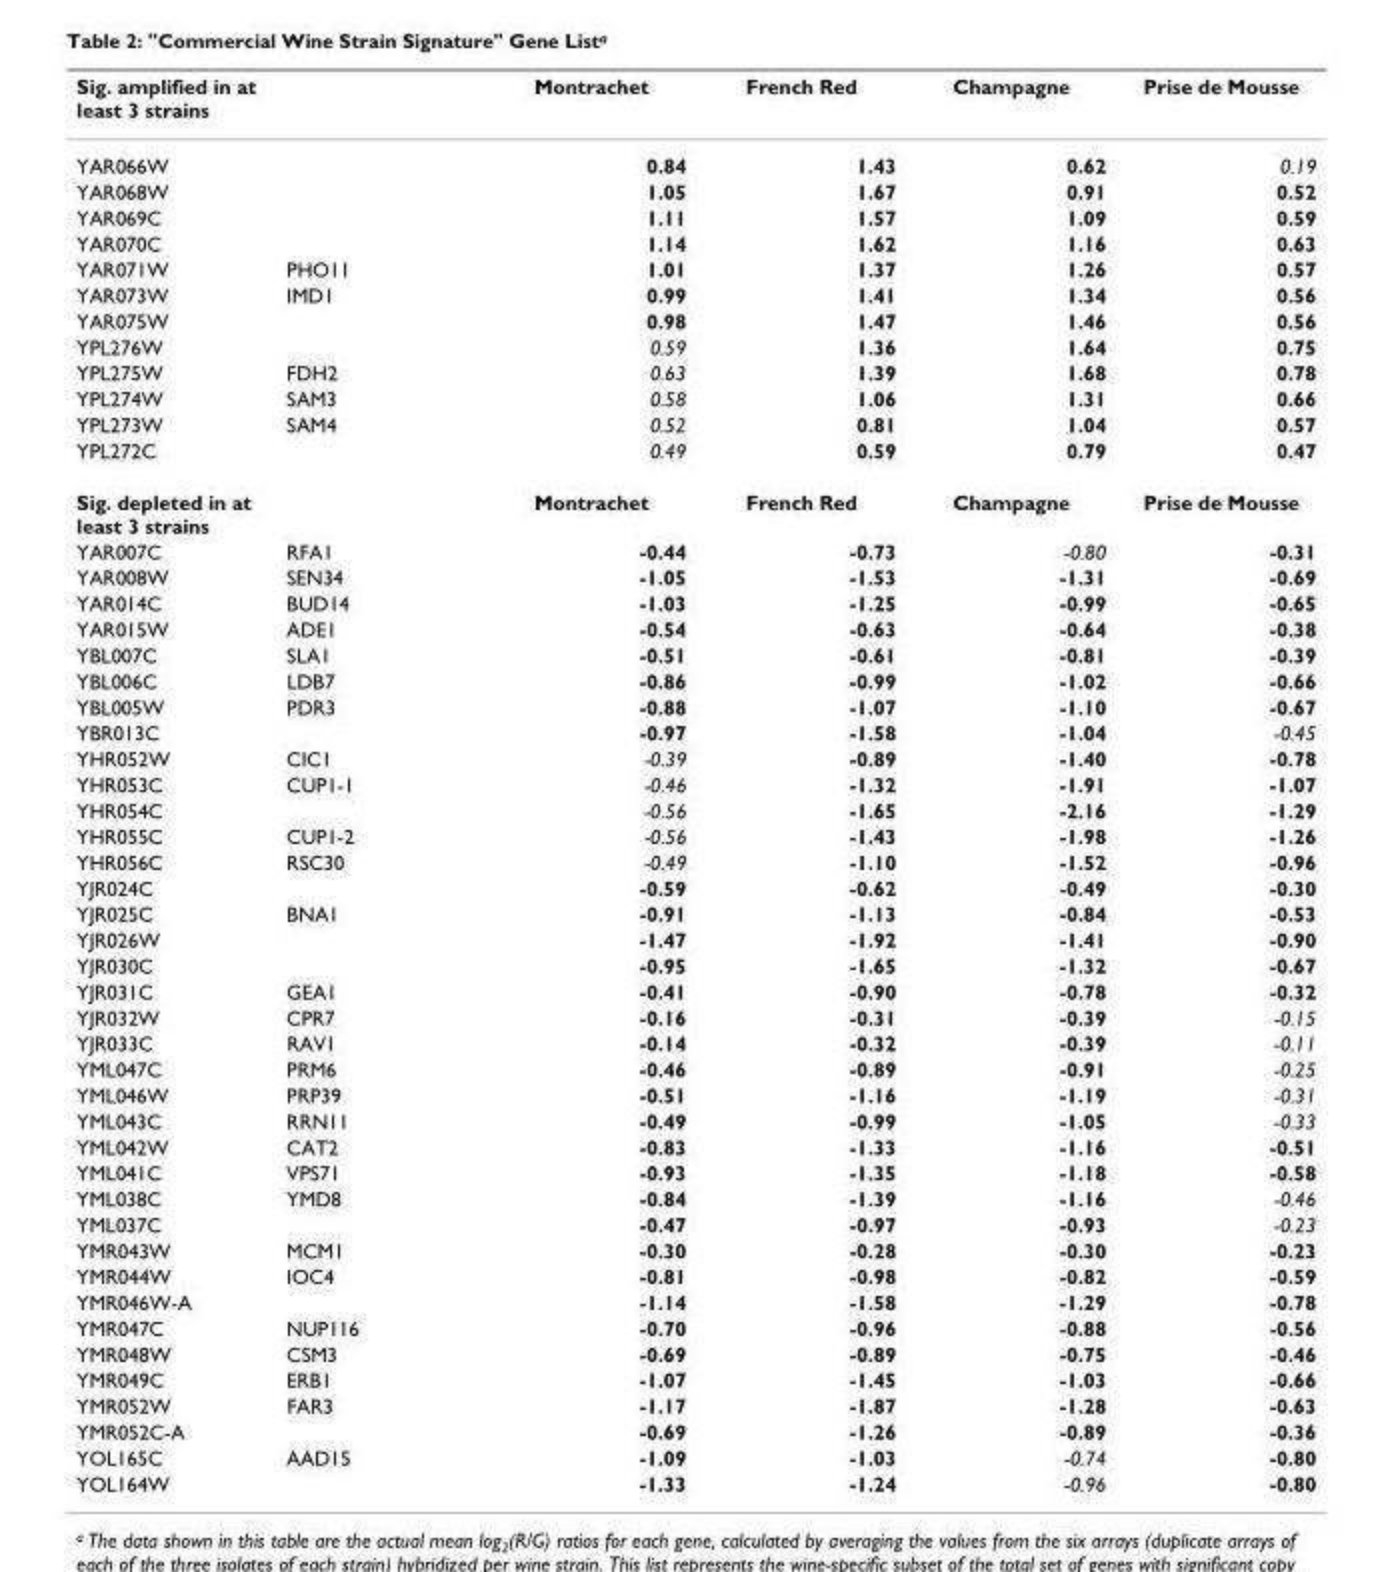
<table><thead><tr><td>Sig. amplified in at least 3 strains</td><td></td><td>Montrachet</td><td>French Red</td><td>Champagne</td><td>Prise de Mousse</td></tr></thead><tbody><tr><td>YAR066W</td><td></td><td>0.84</td><td>1.43</td><td>0.62</td><td>0.19</td></tr><tr><td>YAR068W</td><td></td><td>1.05</td><td>1.67</td><td>0.91</td><td>0.52</td></tr><tr><td>YAR069C</td><td></td><td>1.11</td><td>1.57</td><td>1.09</td><td>0.59</td></tr><tr><td>YAR070C</td><td></td><td>1.14</td><td>1.62</td><td>1.16</td><td>0.63</td></tr><tr><td>YAR071W</td><td>PHO11</td><td>1.01</td><td>1.37</td><td>1.26</td><td>0.57</td></tr><tr><td>YAR073W</td><td>IMD1</td><td>0.99</td><td>1.41</td><td>1.34</td><td>0.56</td></tr><tr><td>YAR075W</td><td></td><td>0.98</td><td>1.47</td><td>1.46</td><td>0.56</td></tr><tr><td>YPL276W</td><td></td><td>0.59</td><td>1.36</td><td>1.64</td><td>0.75</td></tr><tr><td>YPL275W</td><td>FDH2</td><td>0.63</td><td>1.39</td><td>1.68</td><td>0.78</td></tr><tr><td>YPL274W</td><td>SAM3</td><td>0.58</td><td>1.06</td><td>1.31</td><td>0.66</td></tr><tr><td>YPL273W</td><td>SAM4</td><td>0.52</td><td>0.81</td><td>1.04</td><td>0.57</td></tr><tr><td>YPL272C</td><td></td><td>0.49</td><td>0.59</td><td>0.79</td><td>0.47</td></tr><tr><td>Sig. depleted in at least 3 strains</td><td></td><td>Montrachet</td><td>French Red</td><td>Champagne</td><td>Prise de Mousse</td></tr><tr><td>YAR007C</td><td>RFA1</td><td>-0.44</td><td>-0.73</td><td>-0.80</td><td>-0.31</td></tr><tr><td>YAR008W</td><td>SEN34</td><td>-1.05</td><td>-1.53</td><td>-1.31</td><td>-0.69</td></tr><tr><td>YAR014C</td><td>BUD14</td><td>-1.03</td><td>-1.25</td><td>-0.99</td><td>-0.65</td></tr><tr><td>YAR015W</td><td>ADE1</td><td>-0.54</td><td>-0.63</td><td>-0.64</td><td>-0.38</td></tr><tr><td>YBL007C</td><td>SLA1</td><td>-0.51</td><td>-0.61</td><td>-0.81</td><td>-0.39</td></tr><tr><td>YBL006C</td><td>LDB7</td><td>-0.86</td><td>-0.99</td><td>-1.02</td><td>-0.66</td></tr><tr><td>YBL005W</td><td>PDR3</td><td>-0.88</td><td>-1.07</td><td>-1.10</td><td>-0.67</td></tr><tr><td>YBR013C</td><td></td><td>-0.97</td><td>-1.58</td><td>-1.04</td><td>-0.45</td></tr><tr><td>YHR052W</td><td>CIC1</td><td>-0.39</td><td>-0.89</td><td>-1.40</td><td>-0.78</td></tr><tr><td>YHR053C</td><td>CUP1-1</td><td>-0.46</td><td>-1.32</td><td>-1.91</td><td>-1.07</td></tr><tr><td>YHR054C</td><td></td><td>-0.56</td><td>-1.65</td><td>-2.16</td><td>-1.29</td></tr><tr><td>YHR055C</td><td>CUP1-2</td><td>-0.56</td><td>-1.43</td><td>-1.98</td><td>-1.26</td></tr><tr><td>YHR056C</td><td>RSC30</td><td>-0.49</td><td>-1.10</td><td>-1.52</td><td>-0.96</td></tr><tr><td>YJR024C</td><td></td><td>-0.59</td><td>-0.62</td><td>-0.49</td><td>-0.30</td></tr><tr><td>YJR025C</td><td>BNA1</td><td>-0.91</td><td>-1.13</td><td>-0.84</td><td>-0.53</td></tr><tr><td>YJR026W</td><td></td><td>-1.47</td><td>-1.92</td><td>-1.41</td><td>-0.90</td></tr><tr><td>YJR030C</td><td></td><td>-0.95</td><td>-1.65</td><td>-1.32</td><td>-0.67</td></tr><tr><td>YJR031C</td><td>GEA1</td><td>-0.41</td><td>-0.90</td><td>-0.78</td><td>-0.32</td></tr><tr><td>YJR032W</td><td>CPR7</td><td>-0.16</td><td>-0.31</td><td>-0.39</td><td>-0.15</td></tr><tr><td>YJR033C</td><td>RAV1</td><td>-0.14</td><td>-0.32</td><td>-0.39</td><td>-0.11</td></tr><tr><td>YML047C</td><td>PRM6</td><td>-0.46</td><td>-0.89</td><td>-0.91</td><td>-0.25</td></tr><tr><td>YML046W</td><td>PRP39</td><td>-0.51</td><td>-1.16</td><td>-1.19</td><td>-0.31</td></tr><tr><td>YML043C</td><td>RRN11</td><td>-0.49</td><td>-0.99</td><td>-1.05</td><td>-0.33</td></tr><tr><td>YML042W</td><td>CAT2</td><td>-0.83</td><td>-1.33</td><td>-1.16</td><td>-0.51</td></tr><tr><td>YML041C</td><td>VPS71</td><td>-0.93</td><td>-1.35</td><td>-1.18</td><td>-0.58</td></tr><tr><td>YML038C</td><td>YMD8</td><td>-0.84</td><td>-1.39</td><td>-1.16</td><td>-0.46</td></tr><tr><td>YML037C</td><td></td><td>-0.47</td><td>-0.97</td><td>-0.93</td><td>-0.23</td></tr><tr><td>YMR043W</td><td>MCM1</td><td>-0.30</td><td>-0.28</td><td>-0.30</td><td>-0.23</td></tr><tr><td>YMR044W</td><td>IOC4</td><td>-0.81</td><td>-0.98</td><td>-0.82</td><td>-0.59</td></tr><tr><td>YMR046W-A</td><td></td><td>-1.14</td><td>-1.58</td><td>-1.29</td><td>-0.78</td></tr><tr><td>YMR047C</td><td>NUP116</td><td>-0.70</td><td>-0.96</td><td>-0.88</td><td>-0.56</td></tr><tr><td>YMR048W</td><td>CSM3</td><td>-0.69</td><td>-0.89</td><td>-0.75</td><td>-0.46</td></tr><tr><td>YMR049C</td><td>ERB1</td><td>-1.07</td><td>-1.45</td><td>-1.03</td><td>-0.66</td></tr><tr><td>YMR052W</td><td>FAR3</td><td>-1.17</td><td>-1.87</td><td>-1.28</td><td>-0.63</td></tr><tr><td>YMR052C-A</td><td></td><td>-0.69</td><td>-1.26</td><td>-0.89</td><td>-0.36</td></tr><tr><td>YOL165C</td><td>AAD15</td><td>-1.09</td><td>-1.03</td><td>-0.74</td><td>-0.80</td></tr><tr><td>YOL164W</td><td></td><td>-1.33</td><td>-1.24</td><td>-0.96</td><td>-0.80</td></tr></tbody></table>